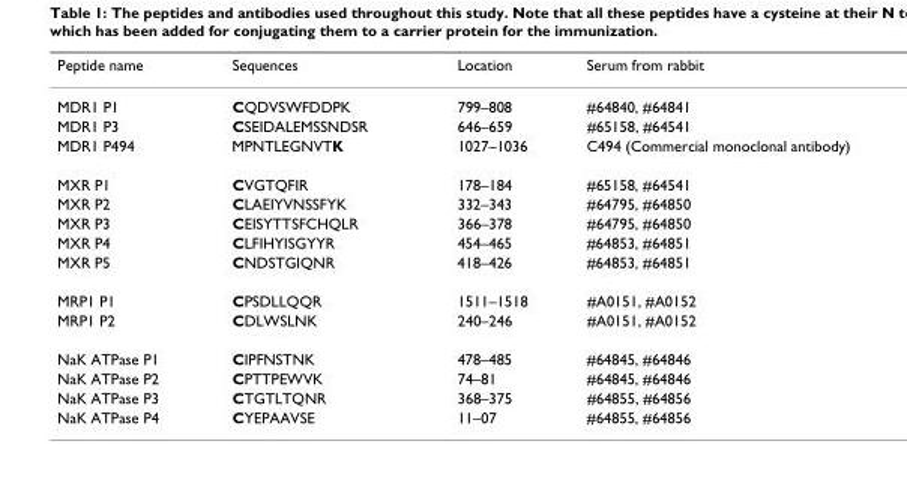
<table><thead><tr><td>Peptide name</td><td>Sequences</td><td>Location</td><td>Serum from rabbit</td></tr></thead><tbody><tr><td>MDR1 P1</td><td>CQDVSWFDDPK</td><td>799–808</td><td>#64840, #64841</td></tr><tr><td>MDR1 P3</td><td>CSEIDALEMSSNDSR</td><td>646–659</td><td>#65158, #64541</td></tr><tr><td>MDR1 P494</td><td>MPNTLEGNVTK</td><td>1027–1036</td><td>C494 (Commercial monoclonal antibody)</td></tr><tr><td>MXR P1</td><td>CVGTQFIR</td><td>178–184</td><td>#65158, #64541</td></tr><tr><td>MXR P2</td><td>CLAEIYVNSSFYK</td><td>332–343</td><td>#64795, #64850</td></tr><tr><td>MXR P3</td><td>CEISYTTSFCHQLR</td><td>366–378</td><td>#64795, #64850</td></tr><tr><td>MXR P4</td><td>CLFIHYISGYYR</td><td>454–465</td><td>#64853, #64851</td></tr><tr><td>MXR P5</td><td>CNDSTGIQNR</td><td>418–426</td><td>#64853, #64851</td></tr><tr><td>MRP1 P1</td><td>CPSDLLQQR</td><td>1511–1518</td><td>#A0151, #A0152</td></tr><tr><td>MRP1 P2</td><td>CDLWSLNK</td><td>240–246</td><td>#A0151, #A0152</td></tr><tr><td>NaK ATPase P1</td><td>CIPFNSTNK</td><td>478–485</td><td>#64845, #64846</td></tr><tr><td>NaK ATPase P2</td><td>CPTTPEWVK</td><td>74–81</td><td>#64845, #64846</td></tr><tr><td>NaK ATPase P3</td><td>CTGTLTQNR</td><td>368–375</td><td>#64855, #64856</td></tr><tr><td>NaK ATPase P4</td><td>CYEPAAVSE</td><td>11–07</td><td>#64855, #64856</td></tr></tbody></table>